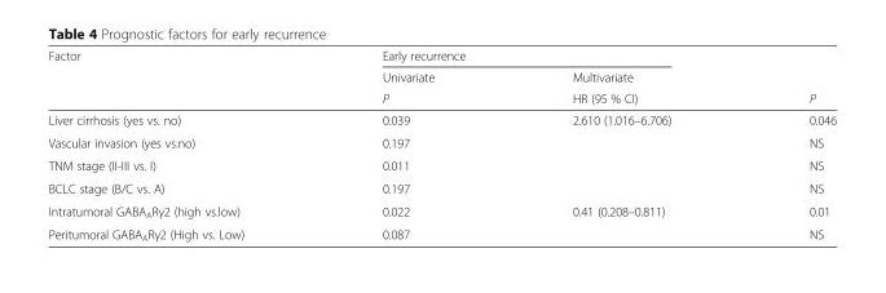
<table><thead><tr><td rowspan="3">Factor</td><td colspan="2">Early recurrence</td><td rowspan="3">P</td></tr><tr><td rowspan="2">Univariate P</td><td rowspan="2">Multivariate HR (95 % CI)</td></tr><tr></tr></thead><tbody><tr><td>Liver cirrhosis (yes vs. no)</td><td>0.039</td><td>2.610 (1.016–6.706)</td><td>0.046</td></tr><tr><td>Vascular invasion (yes vs.no)</td><td>0.197</td><td></td><td>NS</td></tr><tr><td>TNM stage (II-III vs. I)</td><td>0.011</td><td></td><td>NS</td></tr><tr><td>BCLC stage (B/C vs. A)</td><td>0.197</td><td></td><td>NS</td></tr><tr><td>Intratumoral GABA<sub>A</sub>Rγ2 (high vs.low)</td><td>0.022</td><td>0.41 (0.208–0.811)</td><td>0.01</td></tr><tr><td>Peritumoral GABA<sub>A</sub>Rγ2 (High vs. Low)</td><td>0.087</td><td></td><td>NS</td></tr></tbody></table>